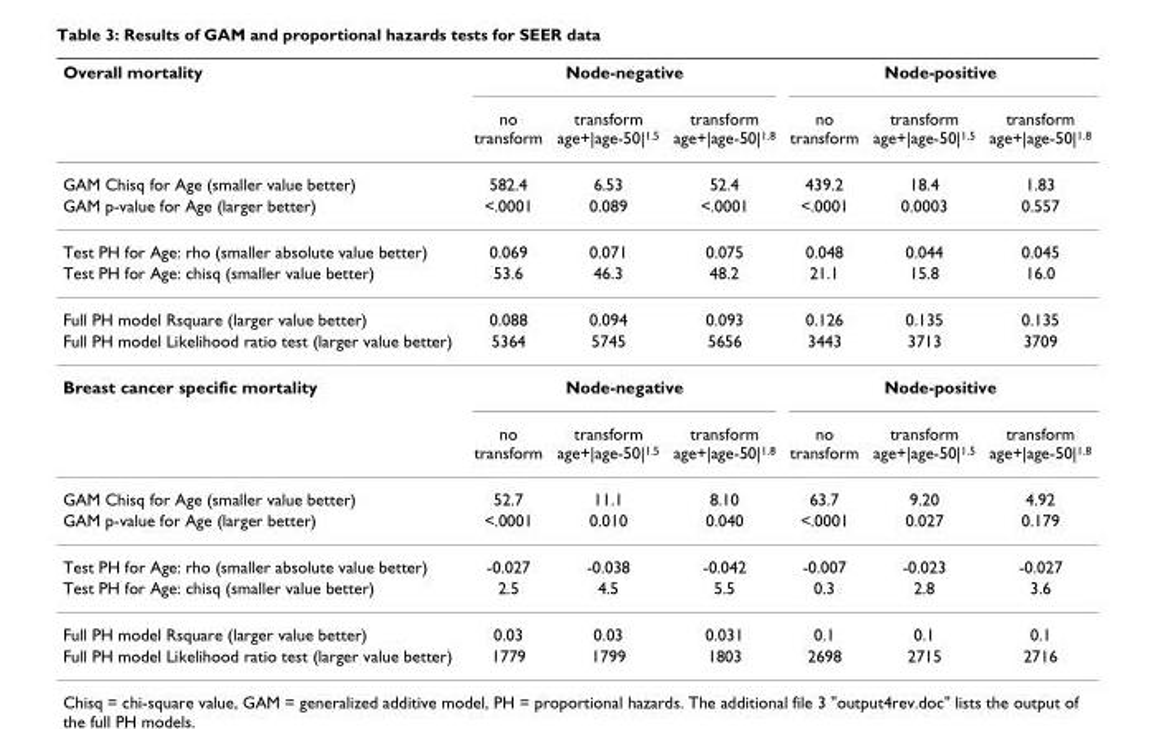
<table><thead><tr><td rowspan="2">Overall mortality</td><td colspan="3">Node-negative</td><td colspan="3">Node-positive</td></tr><tr><td>no transform</td><td>transform age+|age-50|1.5</td><td>transform age+|age-50|1.8</td><td>no transform</td><td>transform age+|age-50|1.5</td><td>transform age+|age-50|1.8</td></tr></thead><tbody><tr><td>GAM Chisq for Age (smaller value better)</td><td>582.4</td><td>6.53</td><td>52.4</td><td>439.2</td><td>18.4</td><td>1.83</td></tr><tr><td>GAM p-value for Age (larger better)</td><td>&lt;.0001</td><td>0.089</td><td>&lt;.0001</td><td>&lt;.0001</td><td>0.0003</td><td>0.557</td></tr><tr><td>Test PH for Age: rho (smaller absolute value better)</td><td>0.069</td><td>0.071</td><td>0.075</td><td>0.048</td><td>0.044</td><td>0.045</td></tr><tr><td>Test PH for Age: chisq (smaller value better)</td><td>53.6</td><td>46.3</td><td>48.2</td><td>21.1</td><td>15.8</td><td>16.0</td></tr><tr><td>Full PH model Rsquare (larger value better)</td><td>0.088</td><td>0.094</td><td>0.093</td><td>0.126</td><td>0.135</td><td>0.135</td></tr><tr><td>Full PH model Likelihood ratio test (larger value better)</td><td>5364</td><td>5745</td><td>5656</td><td>3443</td><td>3713</td><td>3709</td></tr><tr><td rowspan="2">Breast cancer specific mortality</td><td colspan="3">Node-negative</td><td colspan="3">Node-positive</td></tr><tr><td>no transform</td><td>transform age+|age-50|1.5</td><td>transform age+|age-50|1.8</td><td>no transform</td><td>transform age+|age-50|1.5</td><td>transform age+|age-50|1.8</td></tr><tr><td>GAM Chisq for Age (smaller value better)</td><td>52.7</td><td>11.1</td><td>8.10</td><td>63.7</td><td>9.20</td><td>4.92</td></tr><tr><td>GAM p-value for Age (larger better)</td><td>&lt;.0001</td><td>0.010</td><td>0.040</td><td>&lt;.0001</td><td>0.027</td><td>0.179</td></tr><tr><td>Test PH for Age: rho (smaller absolute value better)</td><td>-0.027</td><td>-0.038</td><td>-0.042</td><td>-0.007</td><td>-0.023</td><td>-0.027</td></tr><tr><td>Test PH for Age: chisq (smaller value better)</td><td>2.5</td><td>4.5</td><td>5.5</td><td>0.3</td><td>2.8</td><td>3.6</td></tr><tr><td>Full PH model Rsquare (larger value better)</td><td>0.03</td><td>0.03</td><td>0.031</td><td>0.1</td><td>0.1</td><td>0.1</td></tr><tr><td>Full PH model Likelihood ratio test (larger value better)</td><td>1779</td><td>1799</td><td>1803</td><td>2698</td><td>2715</td><td>2716</td></tr></tbody></table>